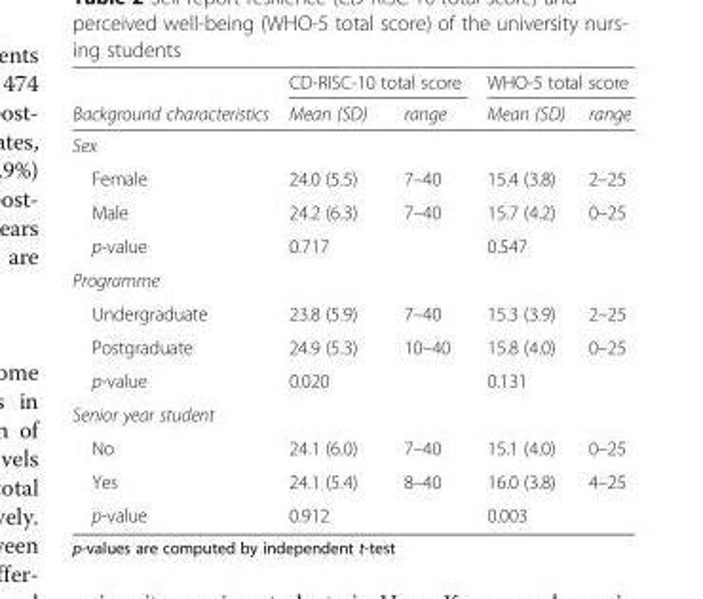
<table><thead><tr><td rowspan="2">Background characteristics</td><td colspan="2">CD-RISC-10 total score</td><td colspan="2">WHO-5 total score</td></tr><tr><td>Mean (SD)</td><td>range</td><td>Mean (SD)</td><td>range</td></tr></thead><tbody><tr><td colspan="5">Sex</td></tr><tr><td>Female</td><td>24.0 (5.5)</td><td>7–40</td><td>15.4 (3.8)</td><td>2–25</td></tr><tr><td>Male</td><td>24.2 (6.3)</td><td>7–40</td><td>15.7 (4.2)</td><td>0–25</td></tr><tr><td>p-value</td><td>0.717</td><td></td><td>0.547</td><td></td></tr><tr><td colspan="5">Programme</td></tr><tr><td>Undergraduate</td><td>23.8 (5.9)</td><td>7–40</td><td>15.3 (3.9)</td><td>2–25</td></tr><tr><td>Postgraduate</td><td>24.9 (5.3)</td><td>10–40</td><td>15.8 (4.0)</td><td>0–25</td></tr><tr><td>p-value</td><td>0.020</td><td></td><td>0.131</td><td></td></tr><tr><td colspan="5">Senior year student</td></tr><tr><td>No</td><td>24.1 (6.0)</td><td>7–40</td><td>15.1 (4.0)</td><td>0–25</td></tr><tr><td>Yes</td><td>24.1 (5.4)</td><td>8–40</td><td>16.0 (3.8)</td><td>4–25</td></tr><tr><td>p-value</td><td>0.912</td><td></td><td>0.003</td><td></td></tr></tbody></table>